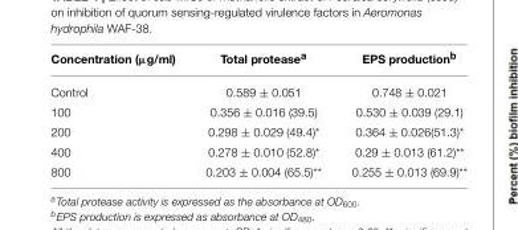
<table><thead><tr><td>Concentration (µg/ml)</td><td>Total protease<sup>a</sup></td><td>EPS production<sup>b</sup></td></tr></thead><tbody><tr><td>Control</td><td>0.589 ± 0.051</td><td>0.748 ± 0.021</td></tr><tr><td>100</td><td>0.356 ± 0.016 (39.5)</td><td>0.530 ± 0.039 (29.1)</td></tr><tr><td>200</td><td>0.298 ± 0.029 (49.4)*</td><td>0.364 ± 0.026(51.3)*</td></tr><tr><td>400</td><td>0.278 ± 0.010 (52.8)*</td><td>0.29 ± 0.013 (61.2)**</td></tr><tr><td>800</td><td>0.203 ± 0.004 (65.5)**</td><td>0.255 ± 0.013 (69.9)**</td></tr></tbody></table>